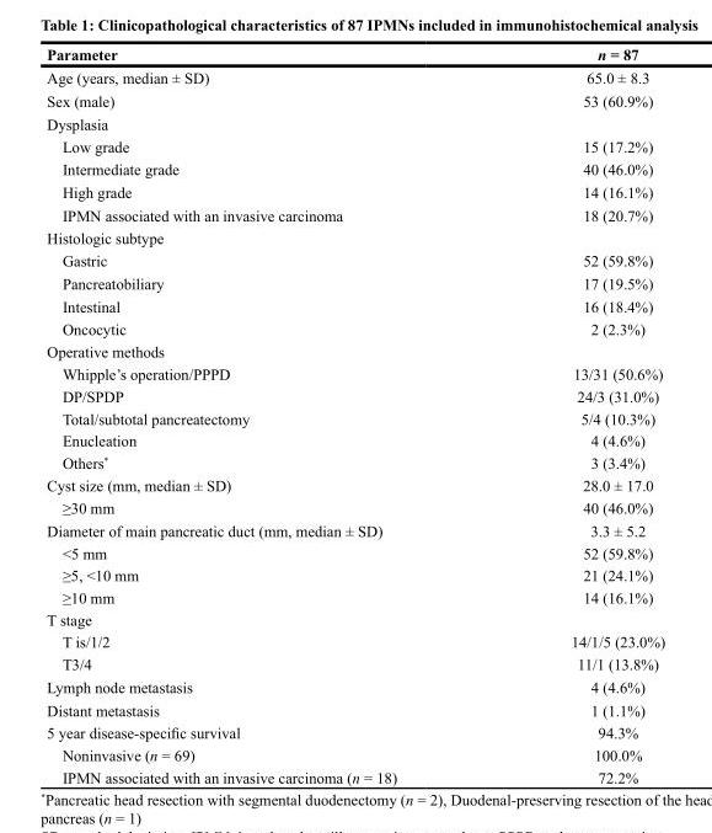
<table><thead><tr><td>Parameter</td><td>n = 87</td></tr></thead><tbody><tr><td>Age (years, median ± SD)</td><td>65.0 ± 8.3</td></tr><tr><td>Sex (male)</td><td>53 (60.9%)</td></tr><tr><td colspan="2">Dysplasia</td></tr><tr><td>Low grade</td><td>15 (17.2%)</td></tr><tr><td>Intermediate grade</td><td>40 (46.0%)</td></tr><tr><td>High grade</td><td>14 (16.1%)</td></tr><tr><td>IPMN associated with an invasive carcinoma</td><td>18 (20.7%)</td></tr><tr><td colspan="2">Histologic subtype</td></tr><tr><td>Gastric</td><td>52 (59.8%)</td></tr><tr><td>Pancreatobiliary</td><td>17 (19.5%)</td></tr><tr><td>Intestinal</td><td>16 (18.4%)</td></tr><tr><td>Oncocytic</td><td>2 (2.3%)</td></tr><tr><td colspan="2">Operative methods</td></tr><tr><td>Whipple’s operation/PPPD</td><td>13/31 (50.6%)</td></tr><tr><td>DP/SPDP</td><td>24/3 (31.0%)</td></tr><tr><td>Total/subtotal pancreatectomy</td><td>5/4 (10.3%)</td></tr><tr><td>Enucleation</td><td>4 (4.6%)</td></tr><tr><td>Others*</td><td>3 (3.4%)</td></tr><tr><td>Cyst size (mm, median ± SD)</td><td>28.0 ± 17.0</td></tr><tr><td>≥30 mm</td><td>40 (46.0%)</td></tr><tr><td>Diameter of main pancreatic duct (mm, median ± SD)</td><td>3.3 ± 5.2</td></tr><tr><td>&lt;5 mm</td><td>52 (59.8%)</td></tr><tr><td>≥5, &lt;10 mm</td><td>21 (24.1%)</td></tr><tr><td>≥10 mm</td><td>14 (16.1%)</td></tr><tr><td colspan="2">T stage</td></tr><tr><td>T is/1/2</td><td>14/1/5 (23.0%)</td></tr><tr><td>T3/4</td><td>11/1 (13.8%)</td></tr><tr><td>Lymph node metastasis</td><td>4 (4.6%)</td></tr><tr><td>Distant metastasis</td><td>1 (1.1%)</td></tr><tr><td>5 year disease-specific survival</td><td>94.3%</td></tr><tr><td>Noninvasive (n = 69)</td><td>100.0%</td></tr><tr><td>IPMN associated with an invasive carcinoma (n = 18)</td><td>72.2%</td></tr></tbody></table>